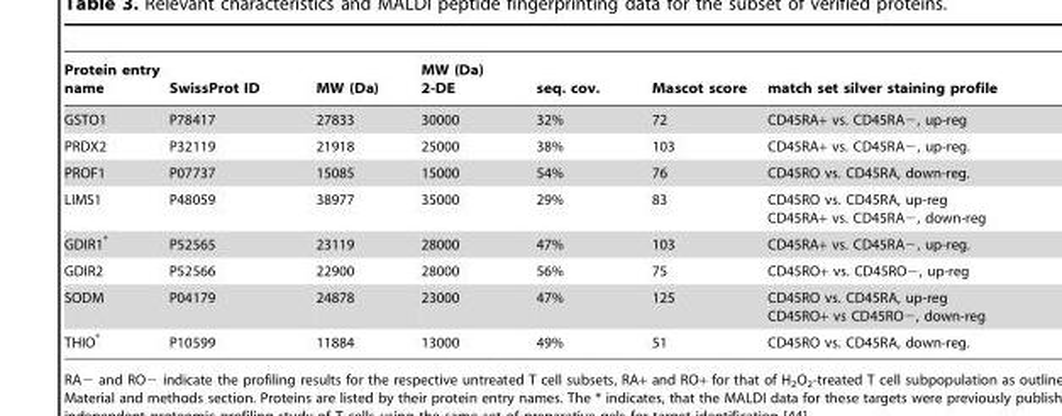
<table><thead><tr><td>Protein entry name</td><td>SwissProt ID</td><td>MW (Da)</td><td>MW (Da) 2-DE</td><td>seq. cov.</td><td>Mascot score</td><td>match set silver staining profile</td></tr></thead><tbody><tr><td>GSTO1</td><td>P78417</td><td>27833</td><td>30000</td><td>32%</td><td>72</td><td>CD45RA+ vs. CD45RA−, up-reg</td></tr><tr><td>PRDX2</td><td>P32119</td><td>21918</td><td>25000</td><td>38%</td><td>103</td><td>CD45RA+ vs. CD45RA−, up-reg.</td></tr><tr><td>PROF1</td><td>P07737</td><td>15085</td><td>15000</td><td>54%</td><td>76</td><td>CD45RO vs. CD45RA, down-reg.</td></tr><tr><td>LIMS1</td><td>P48059</td><td>38977</td><td>35000</td><td>29%</td><td>83</td><td>CD45RO vs. CD45RA, up-reg CD45RA+ vs. CD45RA−, down-reg</td></tr><tr><td>GDIR1*</td><td>P52565</td><td>23119</td><td>28000</td><td>47%</td><td>103</td><td>CD45RA+ vs. CD45RA−, up-reg.</td></tr><tr><td>GDIR2</td><td>P52566</td><td>22900</td><td>28000</td><td>56%</td><td>75</td><td>CD45RO+ vs. CD45RO−, up-reg</td></tr><tr><td>SODM</td><td>P04179</td><td>24878</td><td>23000</td><td>47%</td><td>125</td><td>CD45RO vs. CD45RA, up-reg CD45RO+ vs CD45RO−, down-reg</td></tr><tr><td>THIO*</td><td>P10599</td><td>11884</td><td>13000</td><td>49%</td><td>51</td><td>CD45RO vs. CD45RA, down-reg.</td></tr></tbody></table>